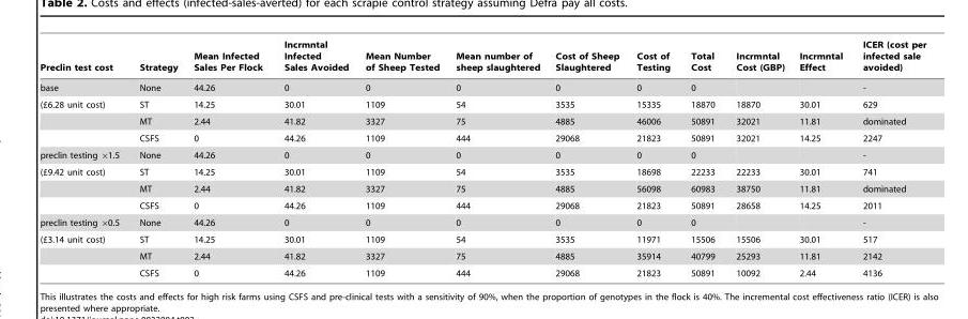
<table><thead><tr><td>Preclin test cost</td><td>Strategy</td><td>Mean Infected Sales Per Flock</td><td>Incrmntal Infected Sales Avoided</td><td>Mean Number of Sheep Tested</td><td>Mean number of sheep slaughtered</td><td>Cost of Sheep Slaughtered</td><td>Cost of Testing</td><td>Total Cost</td><td>Incrmntal Cost (GBP)</td><td>Incrmntal Effect</td><td>ICER (cost per infected sale avoided)</td></tr></thead><tbody><tr><td>base</td><td>None</td><td>44.26</td><td>0</td><td>0</td><td>0</td><td>0</td><td>0</td><td>0</td><td></td><td></td><td>-</td></tr><tr><td rowspan="3">(£6.28 unit cost)</td><td>ST</td><td>14.25</td><td>30.01</td><td>1109</td><td>54</td><td>3535</td><td>15335</td><td>18870</td><td>18870</td><td>30.01</td><td>629</td></tr><tr><td>MT</td><td>2.44</td><td>41.82</td><td>3327</td><td>75</td><td>4885</td><td>46006</td><td>50891</td><td>32021</td><td>11.81</td><td>dominated</td></tr><tr><td>CSFS</td><td>0</td><td>44.26</td><td>1109</td><td>444</td><td>29068</td><td>21823</td><td>50891</td><td>32021</td><td>14.25</td><td>2247</td></tr><tr><td>preclin testing ×1.5</td><td>None</td><td>44.26</td><td>0</td><td>0</td><td>0</td><td>0</td><td>0</td><td>0</td><td></td><td></td><td>-</td></tr><tr><td rowspan="3">(£9.42 unit cost)</td><td>ST</td><td>14.25</td><td>30.01</td><td>1109</td><td>54</td><td>3535</td><td>18698</td><td>22233</td><td>22233</td><td>30.01</td><td>741</td></tr><tr><td>MT</td><td>2.44</td><td>41.82</td><td>3327</td><td>75</td><td>4885</td><td>56098</td><td>60983</td><td>38750</td><td>11.81</td><td>dominated</td></tr><tr><td>CSFS</td><td>0</td><td>44.26</td><td>1109</td><td>444</td><td>29068</td><td>21823</td><td>50891</td><td>28658</td><td>14.25</td><td>2011</td></tr><tr><td>preclin testing ×0.5</td><td>None</td><td>44.26</td><td>0</td><td>0</td><td>0</td><td>0</td><td>0</td><td>0</td><td></td><td></td><td>-</td></tr><tr><td rowspan="3">(£3.14 unit cost)</td><td>ST</td><td>14.25</td><td>30.01</td><td>1109</td><td>54</td><td>3535</td><td>11971</td><td>15506</td><td>15506</td><td>30.01</td><td>517</td></tr><tr><td>MT</td><td>2.44</td><td>41.82</td><td>3327</td><td>75</td><td>4885</td><td>35914</td><td>40799</td><td>25293</td><td>11.81</td><td>2142</td></tr><tr><td>CSFS</td><td>0</td><td>44.26</td><td>1109</td><td>444</td><td>29068</td><td>21823</td><td>50891</td><td>10092</td><td>2.44</td><td>4136</td></tr></tbody></table>